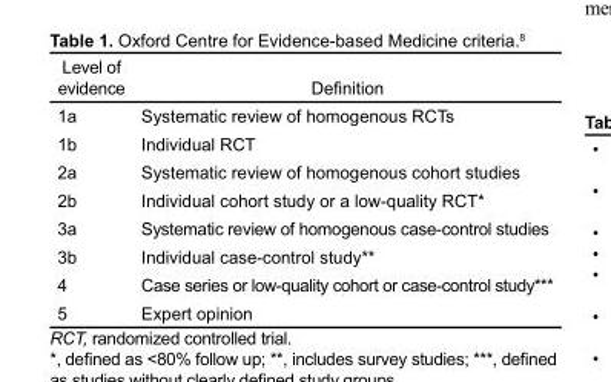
<table><thead><tr><td>Level of evidence</td><td>Definition</td></tr></thead><tbody><tr><td>1a</td><td>Systematic review of homogenous RCTs</td></tr><tr><td>1b</td><td>Individual RCT</td></tr><tr><td>2a</td><td>Systematic review of homogenous cohort studies</td></tr><tr><td>2b</td><td>Individual cohort study or a low-quality RCT*</td></tr><tr><td>3a</td><td>Systematic review of homogenous case-control studies</td></tr><tr><td>3b</td><td>Individual case-control study**</td></tr><tr><td>4</td><td>Case series or low-quality cohort or case-control study***</td></tr><tr><td>5</td><td>Expert opinion</td></tr></tbody></table>